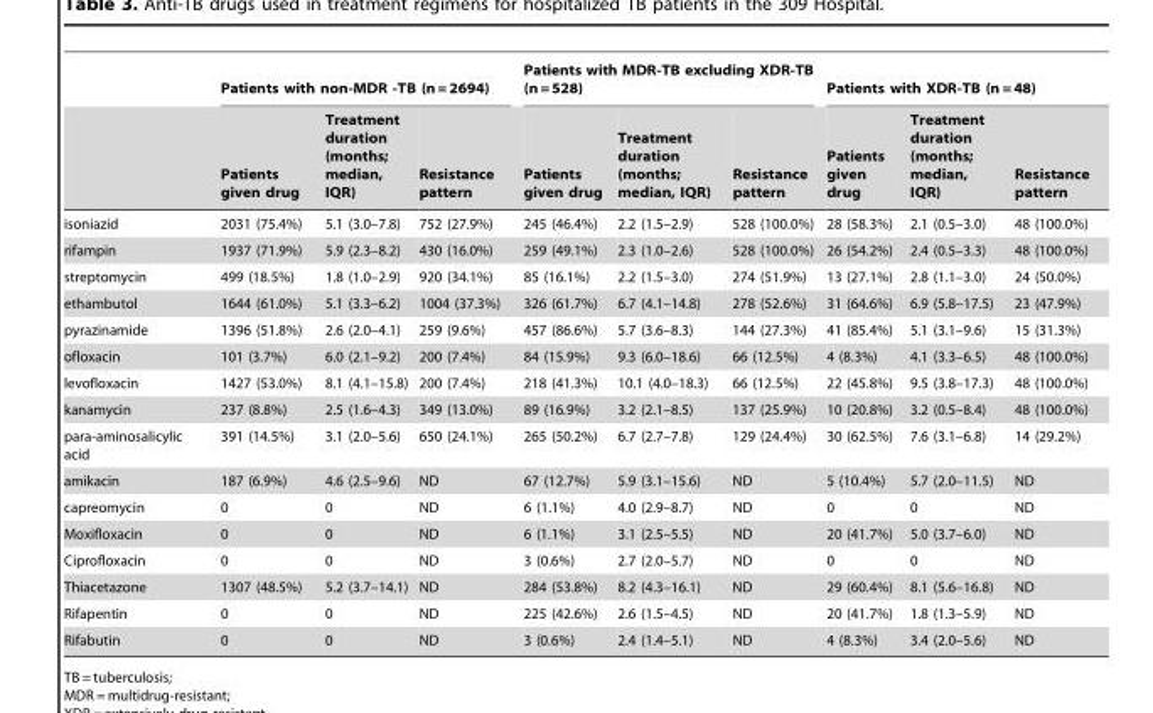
<table><thead><tr><td rowspan="2"></td><td colspan="3">Patients with non-MDR -TB (n = 2694)</td><td colspan="3">Patients with MDR-TB excluding XDR-TB (n = 528)</td><td colspan="3">Patients with XDR-TB (n = 48)</td></tr><tr><td>Patients given drug</td><td>Treatment duration (months; median, IQR)</td><td>Resistance pattern</td><td>Patients given drug</td><td>Treatment duration (months; median, IQR)</td><td>Resistance pattern</td><td>Patients given drug</td><td>Treatment duration (months; median, IQR)</td><td>Resistance pattern</td></tr></thead><tbody><tr><td>isoniazid</td><td>2031 (75.4%)</td><td>5.1 (3.0–7.8)</td><td>752 (27.9%)</td><td>245 (46.4%)</td><td>2.2 (1.5–2.9)</td><td>528 (100.0%)</td><td>28 (58.3%)</td><td>2.1 (0.5–3.0)</td><td>48 (100.0%)</td></tr><tr><td>rifampin</td><td>1937 (71.9%)</td><td>5.9 (2.3–8.2)</td><td>430 (16.0%)</td><td>259 (49.1%)</td><td>2.3 (1.0–2.6)</td><td>528 (100.0%)</td><td>26 (54.2%)</td><td>2.4 (0.5–3.3)</td><td>48 (100.0%)</td></tr><tr><td>streptomycin</td><td>499 (18.5%)</td><td>1.8 (1.0–2.9)</td><td>920 (34.1%)</td><td>85 (16.1%)</td><td>2.2 (1.5–3.0)</td><td>274 (51.9%)</td><td>13 (27.1%)</td><td>2.8 (1.1–3.0)</td><td>24 (50.0%)</td></tr><tr><td>ethambutol</td><td>1644 (61.0%)</td><td>5.1 (3.3–6.2)</td><td>1004 (37.3%)</td><td>326 (61.7%)</td><td>6.7 (4.1–14.8)</td><td>278 (52.6%)</td><td>31 (64.6%)</td><td>6.9 (5.8–17.5)</td><td>23 (47.9%)</td></tr><tr><td>pyrazinamide</td><td>1396 (51.8%)</td><td>2.6 (2.0–4.1)</td><td>259 (9.6%)</td><td>457 (86.6%)</td><td>5.7 (3.6–8.3)</td><td>144 (27.3%)</td><td>41 (85.4%)</td><td>5.1 (3.1–9.6)</td><td>15 (31.3%)</td></tr><tr><td>ofloxacin</td><td>101 (3.7%)</td><td>6.0 (2.1–9.2)</td><td>200 (7.4%)</td><td>84 (15.9%)</td><td>9.3 (6.0–18.6)</td><td>66 (12.5%)</td><td>4 (8.3%)</td><td>4.1 (3.3–6.5)</td><td>48 (100.0%)</td></tr><tr><td>levofloxacin</td><td>1427 (53.0%)</td><td>8.1 (4.1–15.8)</td><td>200 (7.4%)</td><td>218 (41.3%)</td><td>10.1 (4.0–18.3)</td><td>66 (12.5%)</td><td>22 (45.8%)</td><td>9.5 (3.8–17.3)</td><td>48 (100.0%)</td></tr><tr><td>kanamycin</td><td>237 (8.8%)</td><td>2.5 (1.6–4.3)</td><td>349 (13.0%)</td><td>89 (16.9%)</td><td>3.2 (2.1–8.5)</td><td>137 (25.9%)</td><td>10 (20.8%)</td><td>3.2 (0.5–8.4)</td><td>48 (100.0%)</td></tr><tr><td>para-aminosalicylic acid</td><td>391 (14.5%)</td><td>3.1 (2.0–5.6)</td><td>650 (24.1%)</td><td>265 (50.2%)</td><td>6.7 (2.7–7.8)</td><td>129 (24.4%)</td><td>30 (62.5%)</td><td>7.6 (3.1–6.8)</td><td>14 (29.2%)</td></tr><tr><td>amikacin</td><td>187 (6.9%)</td><td>4.6 (2.5–9.6)</td><td>ND</td><td>67 (12.7%)</td><td>5.9 (3.1–15.6)</td><td>ND</td><td>5 (10.4%)</td><td>5.7 (2.0–11.5)</td><td>ND</td></tr><tr><td>capreomycin</td><td>0</td><td>0</td><td>ND</td><td>6 (1.1%)</td><td>4.0 (2.9–8.7)</td><td>ND</td><td>0</td><td>0</td><td>ND</td></tr><tr><td>Moxifloxacin</td><td>0</td><td>0</td><td>ND</td><td>6 (1.1%)</td><td>3.1 (2.5–5.5)</td><td>ND</td><td>20 (41.7%)</td><td>5.0 (3.7–6.0)</td><td>ND</td></tr><tr><td>Ciprofloxacin</td><td>0</td><td>0</td><td>ND</td><td>3 (0.6%)</td><td>2.7 (2.0–5.7)</td><td>ND</td><td>0</td><td>0</td><td>ND</td></tr><tr><td>Thiacetazone</td><td>1307 (48.5%)</td><td>5.2 (3.7–14.1)</td><td>ND</td><td>284 (53.8%)</td><td>8.2 (4.3–16.1)</td><td>ND</td><td>29 (60.4%)</td><td>8.1 (5.6–16.8)</td><td>ND</td></tr><tr><td>Rifapentin</td><td>0</td><td>0</td><td>ND</td><td>225 (42.6%)</td><td>2.6 (1.5–4.5)</td><td>ND</td><td>20 (41.7%)</td><td>1.8 (1.3–5.9)</td><td>ND</td></tr><tr><td>Rifabutin</td><td>0</td><td>0</td><td>ND</td><td>3 (0.6%)</td><td>2.4 (1.4–5.1)</td><td>ND</td><td>4 (8.3%)</td><td>3.4 (2.0–5.6)</td><td>ND</td></tr></tbody></table>